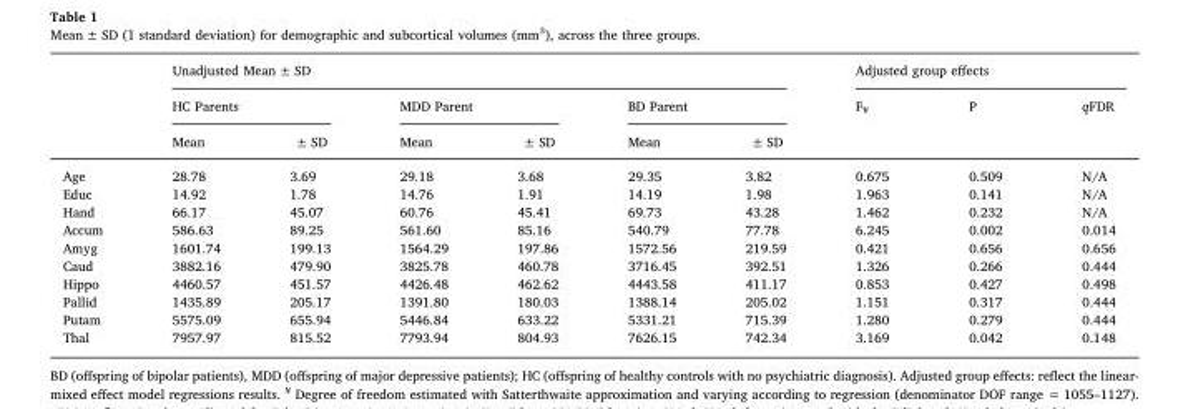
<table><thead><tr><td rowspan="3"></td><td colspan="6">Unadjusted Mean ± SD</td><td colspan="3">Adjusted group effects</td></tr><tr><td colspan="2">HC Parents</td><td colspan="2">MDD Parent</td><td colspan="2">BD Parent</td><td rowspan="2">F<sub>¥</sub></td><td rowspan="2">P</td><td rowspan="2">qFDR</td></tr><tr><td>Mean</td><td>± SD</td><td>Mean</td><td>± SD</td><td>Mean</td><td>± SD</td></tr></thead><tbody><tr><td>Age</td><td>28.78</td><td>3.69</td><td>29.18</td><td>3.68</td><td>29.35</td><td>3.82</td><td>0.675</td><td>0.509</td><td>N/A</td></tr><tr><td>Educ</td><td>14.92</td><td>1.78</td><td>14.76</td><td>1.91</td><td>14.19</td><td>1.98</td><td>1.963</td><td>0.141</td><td>N/A</td></tr><tr><td>Hand</td><td>66.17</td><td>45.07</td><td>60.76</td><td>45.41</td><td>69.73</td><td>43.28</td><td>1.462</td><td>0.232</td><td>N/A</td></tr><tr><td>Accum</td><td>586.63</td><td>89.25</td><td>561.60</td><td>85.16</td><td>540.79</td><td>77.78</td><td>6.245</td><td>0.002</td><td>0.014</td></tr><tr><td>Amyg</td><td>1601.74</td><td>199.13</td><td>1564.29</td><td>197.86</td><td>1572.56</td><td>219.59</td><td>0.421</td><td>0.656</td><td>0.656</td></tr><tr><td>Caud</td><td>3882.16</td><td>479.90</td><td>3825.78</td><td>460.78</td><td>3716.45</td><td>392.51</td><td>1.326</td><td>0.266</td><td>0.444</td></tr><tr><td>Hippo</td><td>4460.57</td><td>451.57</td><td>4426.48</td><td>462.62</td><td>4443.58</td><td>411.17</td><td>0.853</td><td>0.427</td><td>0.498</td></tr><tr><td>Pallid</td><td>1435.89</td><td>205.17</td><td>1391.80</td><td>180.03</td><td>1388.14</td><td>205.02</td><td>1.151</td><td>0.317</td><td>0.444</td></tr><tr><td>Putam</td><td>5575.09</td><td>655.94</td><td>5446.84</td><td>633.22</td><td>5331.21</td><td>715.39</td><td>1.280</td><td>0.279</td><td>0.444</td></tr><tr><td>Thal</td><td>7957.97</td><td>815.52</td><td>7793.94</td><td>804.93</td><td>7626.15</td><td>742.34</td><td>3.169</td><td>0.042</td><td>0.148</td></tr></tbody></table>